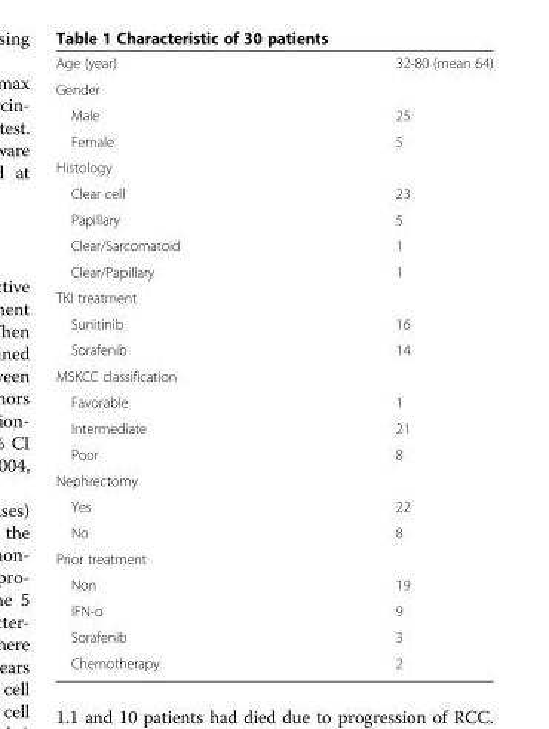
<table><tbody><tr><td>Age (year)</td><td>32-80 (mean 64)</td></tr><tr><td colspan="2">Gender</td></tr><tr><td>Male</td><td>25</td></tr><tr><td>Female</td><td>5</td></tr><tr><td colspan="2">Histology</td></tr><tr><td>Clear cell</td><td>23</td></tr><tr><td>Papillary</td><td>5</td></tr><tr><td>Clear/Sarcomatoid</td><td>1</td></tr><tr><td>Clear/Papillary</td><td>1</td></tr><tr><td colspan="2">TKI treatment</td></tr><tr><td>Sunitinib</td><td>16</td></tr><tr><td>Sorafenib</td><td>14</td></tr><tr><td colspan="2">MSKCC classification</td></tr><tr><td>Favorable</td><td>1</td></tr><tr><td>Intermediate</td><td>21</td></tr><tr><td>Poor</td><td>8</td></tr><tr><td colspan="2">Nephrectomy</td></tr><tr><td>Yes</td><td>22</td></tr><tr><td>No</td><td>8</td></tr><tr><td colspan="2">Prior treatment</td></tr><tr><td>Non</td><td>19</td></tr><tr><td>IFN-α</td><td>9</td></tr><tr><td>Sorafenib</td><td>3</td></tr><tr><td>Chemotherapy</td><td>2</td></tr></tbody></table>